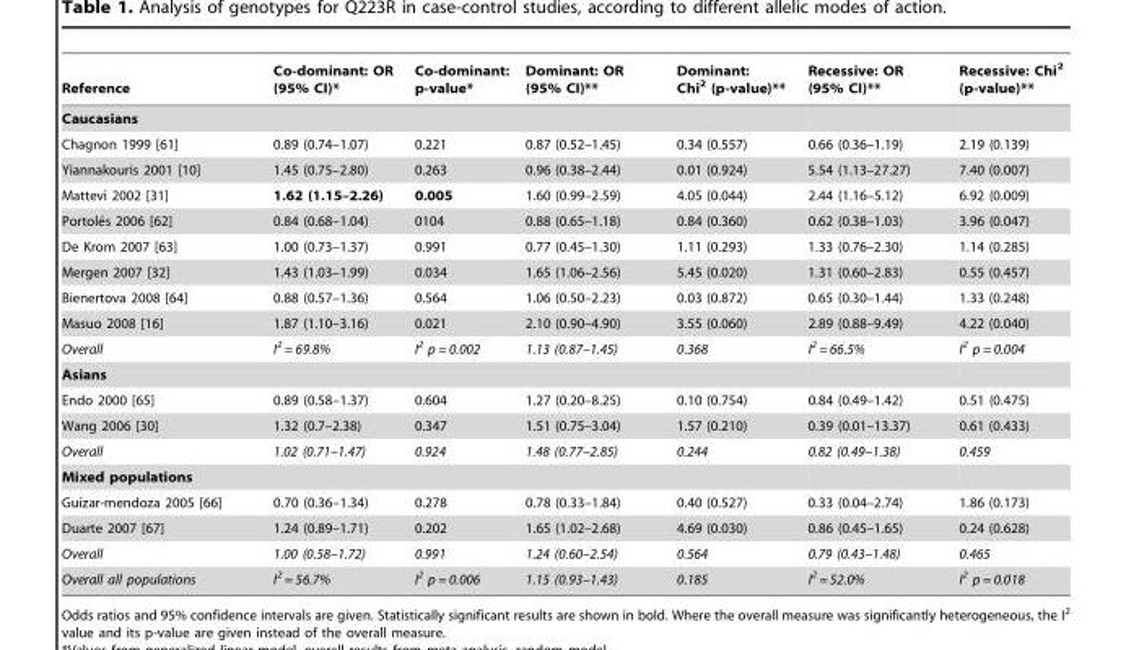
<table><thead><tr><td>Reference</td><td>Co-dominant: OR (95% CI)*</td><td>Co-dominant: p-value*</td><td>Dominant: OR (95% CI)**</td><td>Dominant: Chi<sup>2</sup> (p-value)**</td><td>Recessive: OR (95% CI)**</td><td>Recessive: Chi<sup>2</sup> (p-value)**</td></tr></thead><tbody><tr><td colspan="7">Caucasians</td></tr><tr><td>Chagnon 1999 [61]</td><td>0.89 (0.74–1.07)</td><td>0.221</td><td>0.87 (0.52–1.45)</td><td>0.34 (0.557)</td><td>0.66 (0.36–1.19)</td><td>2.19 (0.139)</td></tr><tr><td>Yiannakouris 2001 [10]</td><td>1.45 (0.75–2.80)</td><td>0.263</td><td>0.96 (0.38–2.44)</td><td>0.01 (0.924)</td><td>5.54 (1.13–27.27)</td><td>7.40 (0.007)</td></tr><tr><td>Mattevi 2002 [31]</td><td>1.62 (1.15–2.26)</td><td>0.005</td><td>1.60 (0.99–2.59)</td><td>4.05 (0.044)</td><td>2.44 (1.16–5.12)</td><td>6.92 (0.009)</td></tr><tr><td>Portole´s 2006 [62]</td><td>0.84 (0.68–1.04)</td><td>0104</td><td>0.88 (0.65–1.18)</td><td>0.84 (0.360)</td><td>0.62 (0.38–1.03)</td><td>3.96 (0.047)</td></tr><tr><td>De Krom 2007 [63]</td><td>1.00 (0.73–1.37)</td><td>0.991</td><td>0.77 (0.45–1.30)</td><td>1.11 (0.293)</td><td>1.33 (0.76–2.30)</td><td>1.14 (0.285)</td></tr><tr><td>Mergen 2007 [32]</td><td>1.43 (1.03–1.99)</td><td>0.034</td><td>1.65 (1.06–2.56)</td><td>5.45 (0.020)</td><td>1.31 (0.60–2.83)</td><td>0.55 (0.457)</td></tr><tr><td>Bienertova 2008 [64]</td><td>0.88 (0.57–1.36)</td><td>0.564</td><td>1.06 (0.50–2.23)</td><td>0.03 (0.872)</td><td>0.65 (0.30–1.44)</td><td>1.33 (0.248)</td></tr><tr><td>Masuo 2008 [16]</td><td>1.87 (1.10–3.16)</td><td>0.021</td><td>2.10 (0.90–4.90)</td><td>3.55 (0.060)</td><td>2.89 (0.88–9.49)</td><td>4.22 (0.040)</td></tr><tr><td>Overall</td><td>I<sup>2</sup> = 69.8%</td><td>I<sup>2</sup> p = 0.002</td><td>1.13 (0.87–1.45)</td><td>0.368</td><td>I<sup>2</sup> = 66.5%</td><td>I<sup>2</sup> p = 0.004</td></tr><tr><td colspan="7">Asians</td></tr><tr><td>Endo 2000 [65]</td><td>0.89 (0.58–1.37)</td><td>0.604</td><td>1.27 (0.20–8.25)</td><td>0.10 (0.754)</td><td>0.84 (0.49–1.42)</td><td>0.51 (0.475)</td></tr><tr><td>Wang 2006 [30]</td><td>1.32 (0.7–2.38)</td><td>0.347</td><td>1.51 (0.75–3.04)</td><td>1.57 (0.210)</td><td>0.39 (0.01–13.37)</td><td>0.61 (0.433)</td></tr><tr><td>Overall</td><td>1.02 (0.71–1.47)</td><td>0.924</td><td>1.48 (0.77–2.85)</td><td>0.244</td><td>0.82 (0.49–1.38)</td><td>0.459</td></tr><tr><td colspan="7">Mixed populations</td></tr><tr><td>Guı´zar-mendoza 2005 [66]</td><td>0.70 (0.36–1.34)</td><td>0.278</td><td>0.78 (0.33–1.84)</td><td>0.40 (0.527)</td><td>0.33 (0.04–2.74)</td><td>1.86 (0.173)</td></tr><tr><td>Duarte 2007 [67]</td><td>1.24 (0.89–1.71)</td><td>0.202</td><td>1.65 (1.02–2.68)</td><td>4.69 (0.030)</td><td>0.86 (0.45–1.65)</td><td>0.24 (0.628)</td></tr><tr><td>Overall</td><td>1.00 (0.58–1.72)</td><td>0.991</td><td>1.24 (0.60–2.54)</td><td>0.564</td><td>0.79 (0.43–1.48)</td><td>0.465</td></tr><tr><td>Overall all populations</td><td>I<sup>2</sup> = 56.7%</td><td>I<sup>2</sup> p = 0.006</td><td>1.15 (0.93–1.43)</td><td>0.185</td><td>I<sup>2</sup> = 52.0%</td><td>I<sup>2</sup> p = 0.018</td></tr></tbody></table>